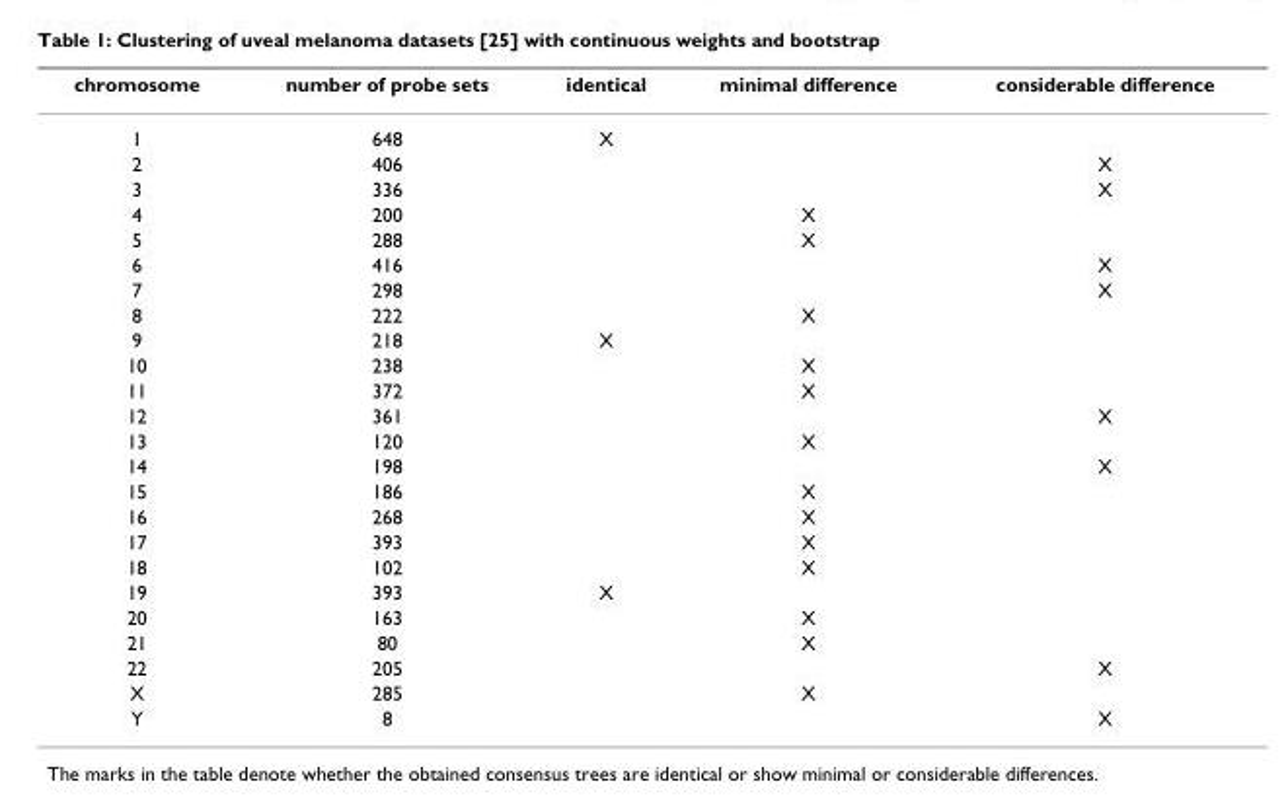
<table><thead><tr><td>chromosome</td><td>number of probe sets</td><td>identical</td><td>minimal difference</td><td>considerable difference</td></tr></thead><tbody><tr><td>1</td><td>648</td><td>X</td><td></td><td></td></tr><tr><td>2</td><td>406</td><td></td><td></td><td>X</td></tr><tr><td>3</td><td>336</td><td></td><td></td><td>X</td></tr><tr><td>4</td><td>200</td><td></td><td>X</td><td></td></tr><tr><td>5</td><td>288</td><td></td><td>X</td><td></td></tr><tr><td>6</td><td>416</td><td></td><td></td><td>X</td></tr><tr><td>7</td><td>298</td><td></td><td></td><td>X</td></tr><tr><td>8</td><td>222</td><td></td><td>X</td><td></td></tr><tr><td>9</td><td>218</td><td>X</td><td></td><td></td></tr><tr><td>10</td><td>238</td><td></td><td>X</td><td></td></tr><tr><td>11</td><td>372</td><td></td><td>X</td><td></td></tr><tr><td>12</td><td>361</td><td></td><td></td><td>X</td></tr><tr><td>13</td><td>120</td><td></td><td>X</td><td></td></tr><tr><td>14</td><td>198</td><td></td><td></td><td>X</td></tr><tr><td>15</td><td>186</td><td></td><td>X</td><td></td></tr><tr><td>16</td><td>268</td><td></td><td>X</td><td></td></tr><tr><td>17</td><td>393</td><td></td><td>X</td><td></td></tr><tr><td>18</td><td>102</td><td></td><td>X</td><td></td></tr><tr><td>19</td><td>393</td><td>X</td><td></td><td></td></tr><tr><td>20</td><td>163</td><td></td><td>X</td><td></td></tr><tr><td>21</td><td>80</td><td></td><td>X</td><td></td></tr><tr><td>22</td><td>205</td><td></td><td></td><td>X</td></tr><tr><td>X</td><td>285</td><td></td><td>X</td><td></td></tr><tr><td>Y</td><td>8</td><td></td><td></td><td>X</td></tr></tbody></table>